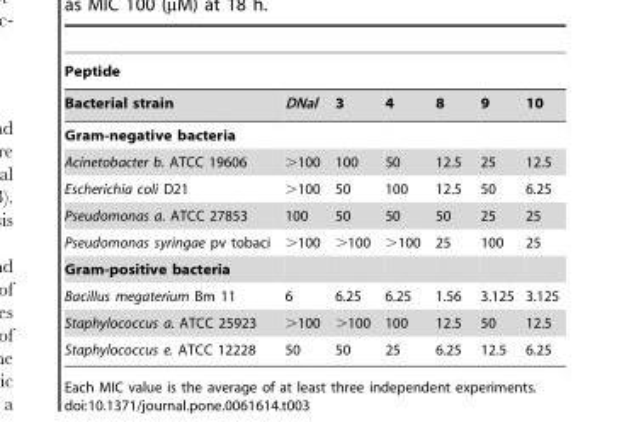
<table><thead><tr><td colspan="7">Peptide</td></tr><tr><td>Bacterial strain</td><td>DNal</td><td>3</td><td>4</td><td>8</td><td>9</td><td>10</td></tr></thead><tbody><tr><td colspan="7">Gram-negative bacteria</td></tr><tr><td>Acinetobacter b. ATCC 19606</td><td>&gt;100</td><td>100</td><td>50</td><td>12.5</td><td>25</td><td>12.5</td></tr><tr><td>Escherichia coli D21</td><td>&gt;100</td><td>50</td><td>100</td><td>12.5</td><td>50</td><td>6.25</td></tr><tr><td>Pseudomonas a. ATCC 27853</td><td>100</td><td>50</td><td>50</td><td>50</td><td>25</td><td>25</td></tr><tr><td>Pseudomonas syringae pv tobaci</td><td>&gt;100</td><td>&gt;100</td><td>&gt;100</td><td>25</td><td>100</td><td>25</td></tr><tr><td colspan="7">Gram-positive bacteria</td></tr><tr><td>Bacillus megaterium Bm 11</td><td>6</td><td>6.25</td><td>6.25</td><td>1.56</td><td>3.125</td><td>3.125</td></tr><tr><td>Staphylococcus a. ATCC 25923</td><td>&gt;100</td><td>&gt;100</td><td>100</td><td>12.5</td><td>50</td><td>12.5</td></tr><tr><td>Staphylococcus e. ATCC 12228</td><td>50</td><td>50</td><td>25</td><td>6.25</td><td>12.5</td><td>6.25</td></tr></tbody></table>